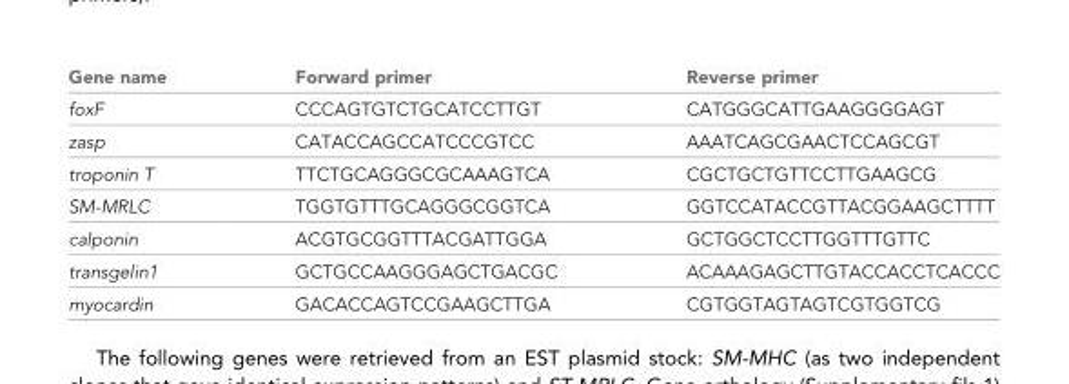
<table><thead><tr><td>Gene name</td><td>Forward primer</td><td>Reverse primer</td></tr></thead><tbody><tr><td>foxF</td><td>CCCAGTGTCTGCATCCTTGT</td><td>CATGGGCATTGAAGGGGAGT</td></tr><tr><td>zasp</td><td>CATACCAGCCATCCCGTCC</td><td>AAATCAGCGAACTCCAGCGT</td></tr><tr><td>troponin T</td><td>TTCTGCAGGGCGCAAAGTCA</td><td>CGCTGCTGTTCCTTGAAGCG</td></tr><tr><td>SM-MRLC</td><td>TGGTGTTTGCAGGGCGGTCA</td><td>GGTCCATACCGTTACGGAAGCTTTT</td></tr><tr><td>calponin</td><td>ACGTGCGGTTTACGATTGGA</td><td>GCTGGCTCCTTGGTTTGTTC</td></tr><tr><td>transgelin1</td><td>GCTGCCAAGGGAGCTGACGC</td><td>ACAAAGAGCTTGTACCACCTCACCC</td></tr><tr><td>myocardin</td><td>GACACCAGTCCGAAGCTTGA</td><td>CGTGGTAGTAGTCGTGGTCG</td></tr></tbody></table>